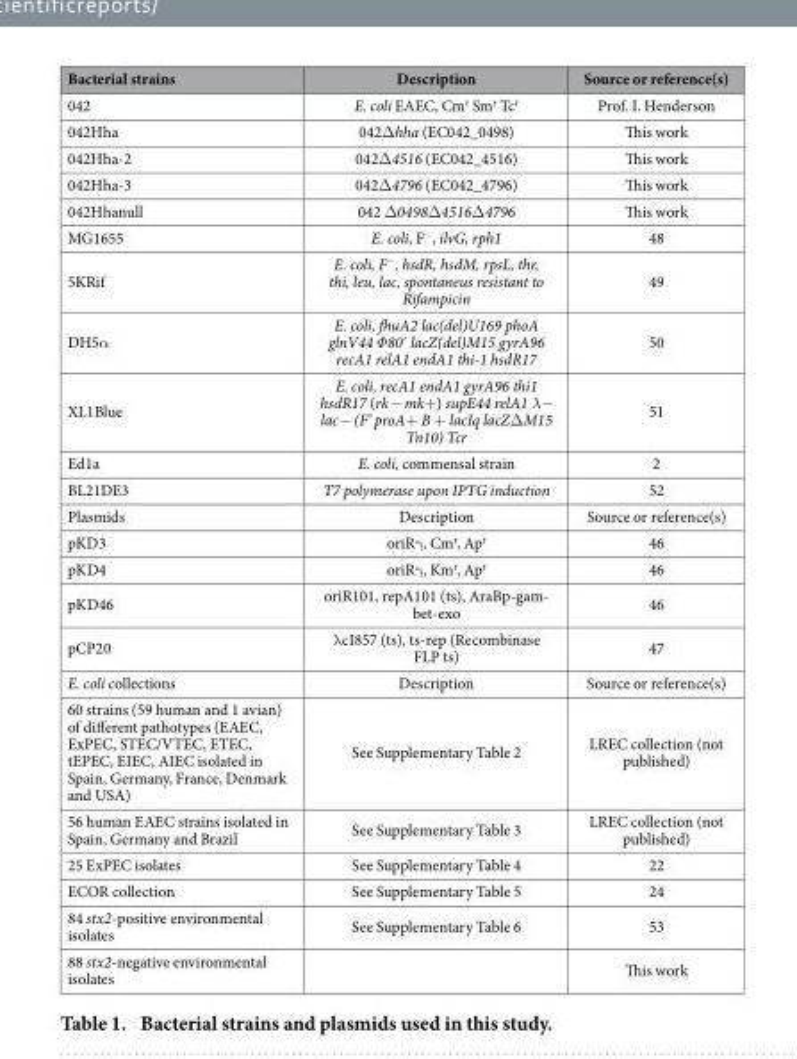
<table><thead><tr><td>Bacterial strains</td><td>Description</td><td>Source or reference(s)</td></tr></thead><tbody><tr><td>042</td><td>E. coli EAEC, Cm<sup>r</sup> Sm<sup>r</sup> Tc<sup>r</sup></td><td>Prof. I. Henderson</td></tr><tr><td>042Hha</td><td>042Δ hha (EC042_0498)</td><td>This work</td></tr><tr><td>042Hha-2</td><td>042Δ 4516 (EC042_4516)</td><td>This work</td></tr><tr><td>042Hha-3</td><td>042Δ 4796 (EC042_4796)</td><td>This work</td></tr><tr><td>042Hhanull</td><td>042 Δ 0498Δ 4516Δ 4796</td><td>This work</td></tr><tr><td>MG1655</td><td>E. coli, F<sup>−</sup>, ilvG, rph1</td><td>48</td></tr><tr><td>5KRif</td><td>E. coli, F<sup>−</sup>, hsdR, hsdM, rpsL, thr, thi, leu, lac, spontaneus resistant to Rifampicin</td><td>49</td></tr><tr><td>DH5α</td><td>E. coli, fhuA2 lac(del)U169 phoA glnV44 Φ80′ lacZ(del)M15 gyrA96 recA1 relA1 endA1 thi-1 hsdR17</td><td>50</td></tr><tr><td>XL1Blue</td><td>E. coli, recA1 endA1 gyrA96 thi1 hsdR17 (rk− mk+) supE44 relA1 λ− lac− (F’ proA+ B + lacIq lacZΔM15 Tn10) Tcr</td><td>51</td></tr><tr><td>Ed1a</td><td>E. coli, commensal strain</td><td>2</td></tr><tr><td>BL21DE3</td><td>T7 polymerase upon IPTG induction</td><td>52</td></tr><tr><td>Plasmids</td><td>Description</td><td>Source or reference(s)</td></tr><tr><td>pKD3</td><td>oriRγ , Cm<sup>r</sup>, Ap<sup>r</sup></td><td>46</td></tr><tr><td>pKD4</td><td>oriRγ , Km<sup>r</sup>, Ap<sup>r</sup></td><td>46</td></tr><tr><td>pKD46</td><td>oriR101, repA101 (ts), AraBp-gam- bet-exo</td><td>46</td></tr><tr><td>pCP20</td><td>λ cI857 (ts), ts-rep (Recombinase FLP ts)</td><td>47</td></tr><tr><td>E. coli collections</td><td>Description</td><td>Source or reference(s)</td></tr><tr><td>60 strains (59 human and 1 avian) of different pathotypes (EAEC, ExPEC, STEC/VTEC, ETEC, tEPEC, EIEC, AIEC isolated in Spain, Germany, France, Denmark and USA)</td><td>See Supplementary Table 2</td><td>LREC collection (not published)</td></tr><tr><td>56 human EAEC strains isolated in Spain, Germany and Brazil</td><td>See Supplementary Table 3</td><td>LREC collection (not published)</td></tr><tr><td>25 ExPEC isolates</td><td>See Supplementary Table 4</td><td>22</td></tr><tr><td>ECOR collection</td><td>See Supplementary Table 5</td><td>24</td></tr><tr><td>84 stx2-positive environmental isolates</td><td>See Supplementary Table 6</td><td>53</td></tr><tr><td>88 stx2-negative environmental isolates</td><td></td><td>This work</td></tr></tbody></table>